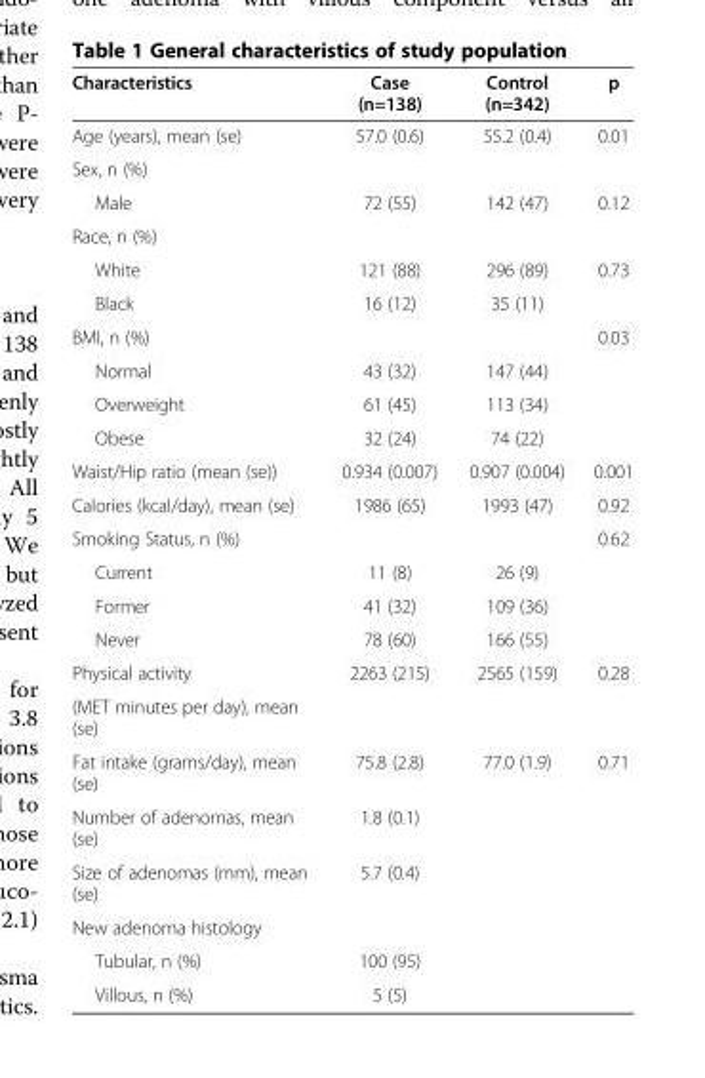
<table><thead><tr><td>Characteristics</td><td>Case (n=138)</td><td>Control (n=342)</td><td>p</td></tr></thead><tbody><tr><td>Age (years), mean (se)</td><td>57.0 (0.6)</td><td>55.2 (0.4)</td><td>0.01</td></tr><tr><td colspan="4">Sex, n (%)</td></tr><tr><td>Male</td><td>72 (55)</td><td>142 (47)</td><td>0.12</td></tr><tr><td colspan="4">Race, n (%)</td></tr><tr><td>White</td><td>121 (88)</td><td>296 (89)</td><td>0.73</td></tr><tr><td>Black</td><td>16 (12)</td><td>35 (11)</td><td></td></tr><tr><td>BMI, n (%)</td><td></td><td></td><td>0.03</td></tr><tr><td>Normal</td><td>43 (32)</td><td>147 (44)</td><td></td></tr><tr><td>Overweight</td><td>61 (45)</td><td>113 (34)</td><td></td></tr><tr><td>Obese</td><td>32 (24)</td><td>74 (22)</td><td></td></tr><tr><td>Waist/Hip ratio (mean (se))</td><td>0.934 (0.007)</td><td>0.907 (0.004)</td><td>0.001</td></tr><tr><td>Calories (kcal/day), mean (se)</td><td>1986 (65)</td><td>1993 (47)</td><td>0.92</td></tr><tr><td>Smoking Status, n (%)</td><td></td><td></td><td>0.62</td></tr><tr><td>Current</td><td>11 (8)</td><td>26 (9)</td><td></td></tr><tr><td>Former</td><td>41 (32)</td><td>109 (36)</td><td></td></tr><tr><td>Never</td><td>78 (60)</td><td>166 (55)</td><td></td></tr><tr><td>Physical activity</td><td>2263 (215)</td><td>2565 (159)</td><td>0.28</td></tr><tr><td colspan="4">(MET minutes per day), mean (se)</td></tr><tr><td>Fat intake (grams/day), mean (se)</td><td>75.8 (2.8)</td><td>77.0 (1.9)</td><td>0.71</td></tr><tr><td>Number of adenomas, mean (se)</td><td>1.8 (0.1)</td><td></td><td></td></tr><tr><td>Size of adenomas (mm), mean (se)</td><td>5.7 (0.4)</td><td></td><td></td></tr><tr><td colspan="4">New adenoma histology</td></tr><tr><td>Tubular, n (%)</td><td>100 (95)</td><td></td><td></td></tr><tr><td>Villous, n (%)</td><td>5 (5)</td><td></td><td></td></tr></tbody></table>